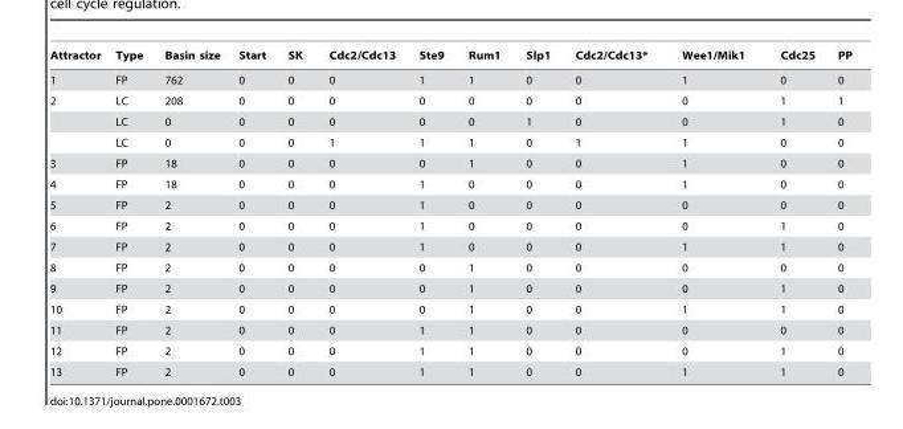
<table><thead><tr><td>Attractor</td><td>Type</td><td>Basin size</td><td>Start</td><td>SK</td><td>Cdc2/Cdc13</td><td>Ste9</td><td>Rum1</td><td>Slp1</td><td>Cdc2/Cdc13*</td><td>Wee1/Mik1</td><td>Cdc25</td><td>PP</td></tr></thead><tbody><tr><td>1</td><td>FP</td><td>762</td><td>0</td><td>0</td><td>0</td><td>1</td><td>1</td><td>0</td><td>0</td><td>1</td><td>0</td><td>0</td></tr><tr><td rowspan="3">2</td><td>LC</td><td>208</td><td>0</td><td>0</td><td>0</td><td>0</td><td>0</td><td>0</td><td>0</td><td>0</td><td>1</td><td>1</td></tr><tr><td>LC</td><td>0</td><td>0</td><td>0</td><td>0</td><td>0</td><td>0</td><td>1</td><td>0</td><td>0</td><td>1</td><td>0</td></tr><tr><td>LC</td><td>0</td><td>0</td><td>0</td><td>1</td><td>1</td><td>1</td><td>0</td><td>1</td><td>1</td><td>0</td><td>0</td></tr><tr><td>3</td><td>FP</td><td>18</td><td>0</td><td>0</td><td>0</td><td>0</td><td>1</td><td>0</td><td>0</td><td>1</td><td>0</td><td>0</td></tr><tr><td>4</td><td>FP</td><td>18</td><td>0</td><td>0</td><td>0</td><td>1</td><td>0</td><td>0</td><td>0</td><td>1</td><td>0</td><td>0</td></tr><tr><td>5</td><td>FP</td><td>2</td><td>0</td><td>0</td><td>0</td><td>1</td><td>0</td><td>0</td><td>0</td><td>0</td><td>0</td><td>0</td></tr><tr><td>6</td><td>FP</td><td>2</td><td>0</td><td>0</td><td>0</td><td>1</td><td>0</td><td>0</td><td>0</td><td>0</td><td>1</td><td>0</td></tr><tr><td>7</td><td>FP</td><td>2</td><td>0</td><td>0</td><td>0</td><td>1</td><td>0</td><td>0</td><td>0</td><td>1</td><td>1</td><td>0</td></tr><tr><td>8</td><td>FP</td><td>2</td><td>0</td><td>0</td><td>0</td><td>0</td><td>1</td><td>0</td><td>0</td><td>0</td><td>0</td><td>0</td></tr><tr><td>9</td><td>FP</td><td>2</td><td>0</td><td>0</td><td>0</td><td>0</td><td>1</td><td>0</td><td>0</td><td>0</td><td>1</td><td>0</td></tr><tr><td>10</td><td>FP</td><td>2</td><td>0</td><td>0</td><td>0</td><td>0</td><td>1</td><td>0</td><td>0</td><td>1</td><td>1</td><td>0</td></tr><tr><td>11</td><td>FP</td><td>2</td><td>0</td><td>0</td><td>0</td><td>1</td><td>1</td><td>0</td><td>0</td><td>0</td><td>0</td><td>0</td></tr><tr><td>12</td><td>FP</td><td>2</td><td>0</td><td>0</td><td>0</td><td>1</td><td>1</td><td>0</td><td>0</td><td>0</td><td>1</td><td>0</td></tr><tr><td>13</td><td>FP</td><td>2</td><td>0</td><td>0</td><td>0</td><td>1</td><td>1</td><td>0</td><td>0</td><td>1</td><td>1</td><td>0</td></tr></tbody></table>